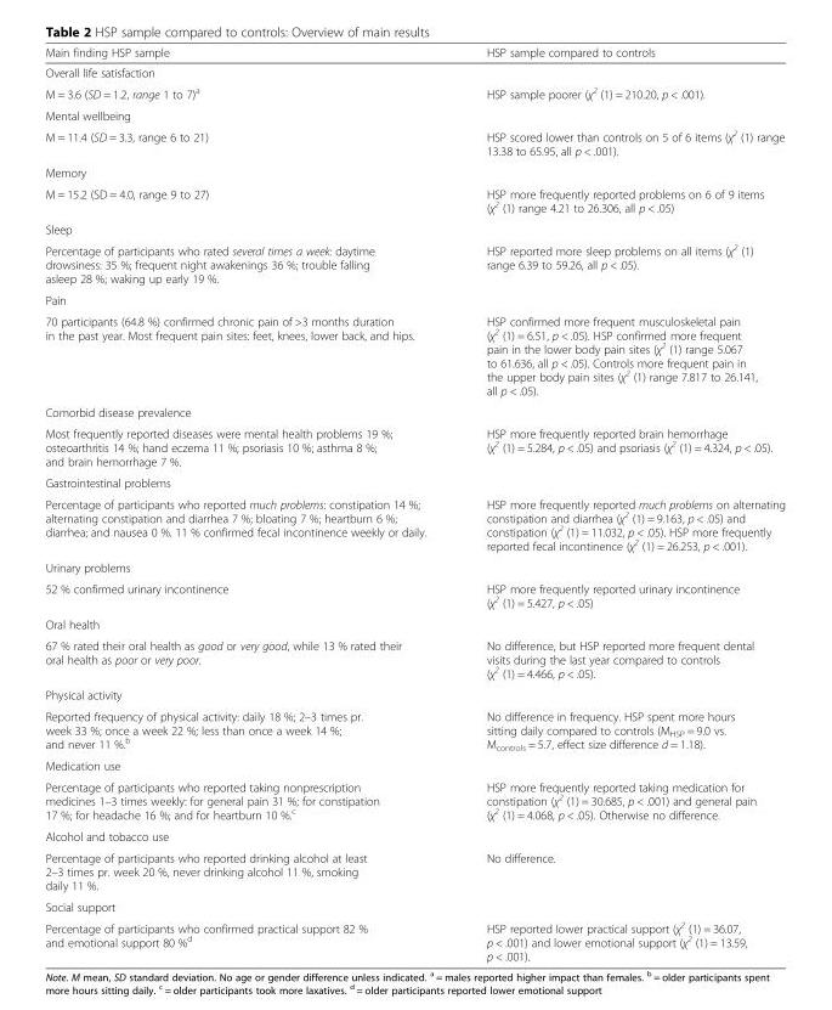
<table><thead><tr><td>Main finding HSP sample</td><td>HSP sample compared to controls</td></tr></thead><tbody><tr><td colspan="2">Overall life satisfaction</td></tr><tr><td>M = 3.6 (SD = 1.2, range 1 to 7)<sup>a</sup></td><td>HSP sample poorer (χ<sup>2</sup> (1) = 210.20, p &lt; .001).</td></tr><tr><td colspan="2">Mental wellbeing</td></tr><tr><td>M = 11.4 (SD = 3.3, range 6 to 21)</td><td>HSP scored lower than controls on 5 of 6 items (χ<sup>2</sup> (1) range 13.38 to 65.95, all p &lt; .001).</td></tr><tr><td colspan="2">Memory</td></tr><tr><td>M = 15.2 (SD = 4.0, range 9 to 27)</td><td>HSP more frequently reported problems on 6 of 9 items (χ<sup>2</sup> (1) range 4.21 to 26.306, all p &lt; .05)</td></tr><tr><td colspan="2">Sleep</td></tr><tr><td>Percentage of participants who rated several times a week: daytime drowsiness: 35 %; frequent night awakenings 36 %; trouble falling asleep 28 %; waking up early 19 %.</td><td>HSP reported more sleep problems on all items (χ<sup>2</sup> (1) range 6.39 to 59.26, all p &lt; .05).</td></tr><tr><td colspan="2">Pain</td></tr><tr><td>70 participants (64.8 %) confirmed chronic pain of &gt;3 months duration in the past year. Most frequent pain sites: feet, knees, lower back, and hips.</td><td>HSP confirmed more frequent musculoskeletal pain (χ<sup>2</sup> (1) = 6.51, p &lt; .05). HSP confirmed more frequent pain in the lower body pain sites (χ<sup>2</sup> (1) range 5.067 to 61.636, all p &lt; .05). Controls more frequent pain in the upper body pain sites (χ<sup>2</sup> (1) range 7.817 to 26.141, all p &lt; .05).</td></tr><tr><td colspan="2">Comorbid disease prevalence</td></tr><tr><td>Most frequently reported diseases were mental health problems 19 %; osteoarthritis 14 %; hand eczema 11 %; psoriasis 10 %; asthma 8 %; and brain hemorrhage 7 %.</td><td>HSP more frequently reported brain hemorrhage (χ<sup>2</sup> (1) = 5.284, p &lt; .05) and psoriasis (χ<sup>2</sup> (1) = 4.324, p &lt; .05).</td></tr><tr><td colspan="2">Gastrointestinal problems</td></tr><tr><td>Percentage of participants who reported much problems: constipation 14 %; alternating constipation and diarrhea 7 %; bloating 7 %; heartburn 6 %; diarrhea; and nausea 0 %. 11 % confirmed fecal incontinence weekly or daily.</td><td>HSP more frequently reported much problems on alternating constipation and diarrhea (χ<sup>2</sup> (1) = 9.163, p &lt; .05) and constipation (χ<sup>2</sup> (1) = 11.032, p &lt; .05). HSP more frequently reported fecal incontinence (χ<sup>2</sup> (1) = 26.253, p &lt; .001).</td></tr><tr><td colspan="2">Urinary problems</td></tr><tr><td>52 % confirmed urinary incontinence</td><td>HSP more frequently reported urinary incontinence (χ<sup>2</sup> (1) = 5.427, p &lt; .05)</td></tr><tr><td colspan="2">Oral health</td></tr><tr><td>67 % rated their oral health as good or very good, while 13 % rated their oral health as poor or very poor.</td><td>No difference, but HSP reported more frequent dental visits during the last year compared to controls (χ<sup>2</sup> (1) = 4.466, p &lt; .05).</td></tr><tr><td colspan="2">Physical activity</td></tr><tr><td>Reported frequency of physical activity: daily 18 %; 2–3 times pr. week 33 %; once a week 22 %; less than once a week 14 %; and never 11 %.<sup>b</sup></td><td>No difference in frequency. HSP spent more hours sitting daily compared to controls (M<sub>HSP</sub> = 9.0 vs. M<sub>controls</sub> = 5.7, effect size difference d = 1.18).</td></tr><tr><td colspan="2">Medication use</td></tr><tr><td>Percentage of participants who reported taking nonprescription medicines 1–3 times weekly: for general pain 31 %; for constipation 17 %; for headache 16 %; and for heartburn 10 %.<sup>c</sup></td><td>HSP more frequently reported taking medication for constipation (χ<sup>2</sup> (1) = 30.685, p &lt; .001) and general pain (χ<sup>2</sup> (1) = 4.068, p &lt; .05). Otherwise no difference.</td></tr><tr><td colspan="2">Alcohol and tobacco use</td></tr><tr><td>Percentage of participants who reported drinking alcohol at least 2–3 times pr. week 20 %, never drinking alcohol 11 %, smoking daily 11 %.</td><td>No difference.</td></tr><tr><td colspan="2">Social support</td></tr><tr><td>Percentage of participants who confirmed practical support 82 % and emotional support 80 %<sup>d</sup></td><td>HSP reported lower practical support (χ<sup>2</sup> (1) = 36.07, p &lt; .001) and lower emotional support (χ<sup>2</sup> (1) = 13.59, p &lt; .001).</td></tr></tbody></table>